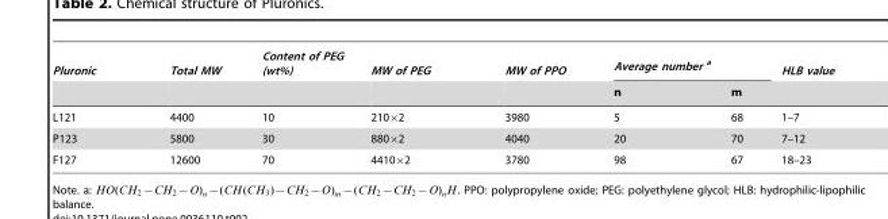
<table><thead><tr><td rowspan="2">Pluronic</td><td rowspan="2">Total MW</td><td rowspan="2">Content of PEG (wt%)</td><td rowspan="2">MW of PEG</td><td rowspan="2">MW of PPO</td><td colspan="2">Average number <sup>a</sup></td><td rowspan="2">HLB value</td></tr><tr><td>n</td><td>m</td></tr></thead><tbody><tr><td>L121</td><td>4400</td><td>10</td><td>210×2</td><td>3980</td><td>5</td><td>68</td><td>1–7</td></tr><tr><td>P123</td><td>5800</td><td>30</td><td>880×2</td><td>4040</td><td>20</td><td>70</td><td>7–12</td></tr><tr><td>F127</td><td>12600</td><td>70</td><td>4410×2</td><td>3780</td><td>98</td><td>67</td><td>18–23</td></tr></tbody></table>